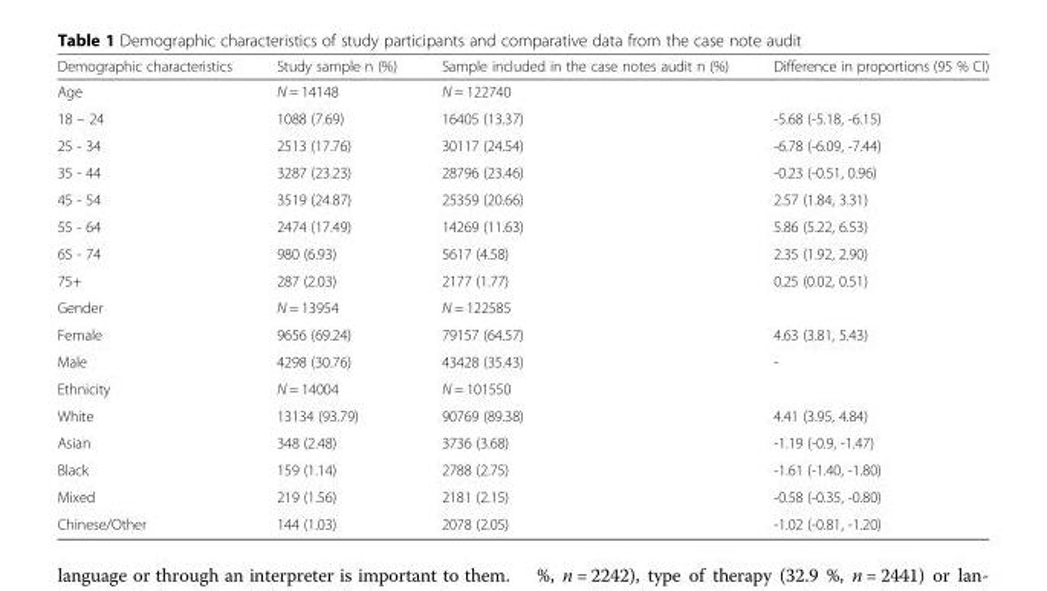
<table><thead><tr><td>Demographic characteristics</td><td>Study sample n (%)</td><td>Sample included in the case notes audit n (%)</td><td>Difference in proportions (95 % CI)</td></tr></thead><tbody><tr><td>Age</td><td>N = 14148</td><td>N = 122740</td><td></td></tr><tr><td>18 – 24</td><td>1088 (7.69)</td><td>16405 (13.37)</td><td>-5.68 (-5.18, -6.15)</td></tr><tr><td>25 - 34</td><td>2513 (17.76)</td><td>30117 (24.54)</td><td>-6.78 (-6.09, -7.44)</td></tr><tr><td>35 - 44</td><td>3287 (23.23)</td><td>28796 (23.46)</td><td>-0.23 (-0.51, 0.96)</td></tr><tr><td>45 - 54</td><td>3519 (24.87)</td><td>25359 (20.66)</td><td>2.57 (1.84, 3.31)</td></tr><tr><td>55 - 64</td><td>2474 (17.49)</td><td>14269 (11.63)</td><td>5.86 (5.22, 6.53)</td></tr><tr><td>65 - 74</td><td>980 (6.93)</td><td>5617 (4.58)</td><td>2.35 (1.92, 2.90)</td></tr><tr><td>75+</td><td>287 (2.03)</td><td>2177 (1.77)</td><td>0.25 (0.02, 0.51)</td></tr><tr><td>Gender</td><td>N = 13954</td><td>N = 122585</td><td></td></tr><tr><td>Female</td><td>9656 (69.24)</td><td>79157 (64.57)</td><td>4.63 (3.81, 5.43)</td></tr><tr><td>Male</td><td>4298 (30.76)</td><td>43428 (35.43)</td><td>-</td></tr><tr><td>Ethnicity</td><td>N = 14004</td><td>N = 101550</td><td></td></tr><tr><td>White</td><td>13134 (93.79)</td><td>90769 (89.38)</td><td>4.41 (3.95, 4.84)</td></tr><tr><td>Asian</td><td>348 (2.48)</td><td>3736 (3.68)</td><td>-1.19 (-0.9, -1.47)</td></tr><tr><td>Black</td><td>159 (1.14)</td><td>2788 (2.75)</td><td>-1.61 (-1.40, -1.80)</td></tr><tr><td>Mixed</td><td>219 (1.56)</td><td>2181 (2.15)</td><td>-0.58 (-0.35, -0.80)</td></tr><tr><td>Chinese/Other</td><td>144 (1.03)</td><td>2078 (2.05)</td><td>-1.02 (-0.81, -1.20)</td></tr></tbody></table>